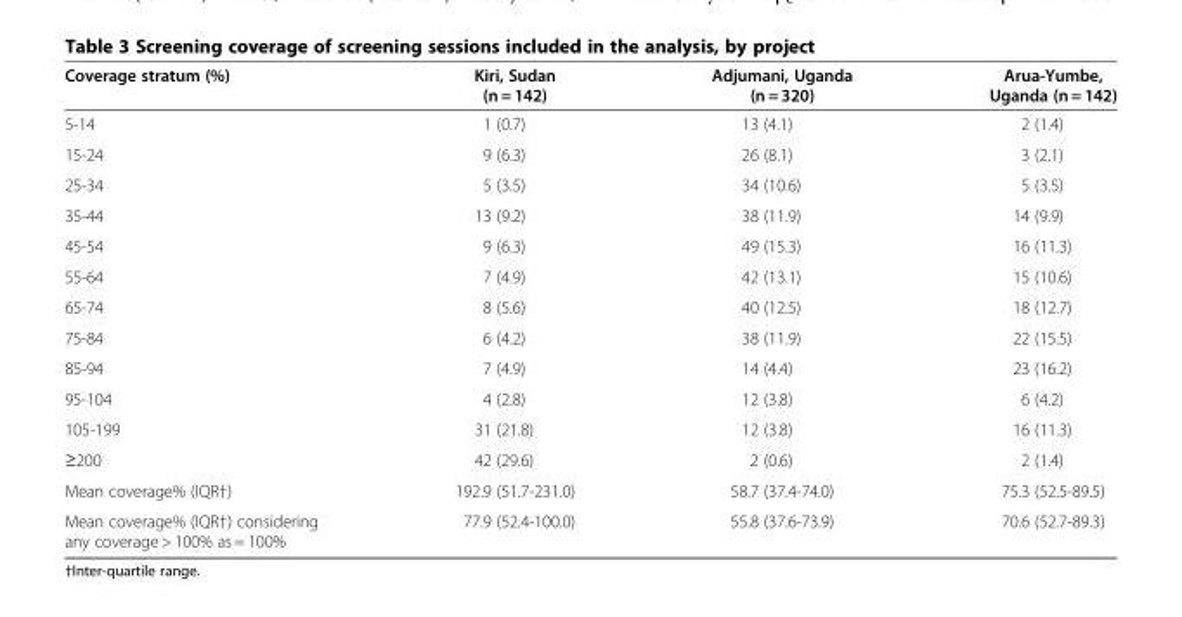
<table><thead><tr><td>Coverage stratum (%)</td><td>Kiri, Sudan (n = 142)</td><td>Adjumani, Uganda (n = 320)</td><td>Arua-Yumbe, Uganda (n = 142)</td></tr></thead><tbody><tr><td>5-14</td><td>1 (0.7)</td><td>13 (4.1)</td><td>2 (1.4)</td></tr><tr><td>15-24</td><td>9 (6.3)</td><td>26 (8.1)</td><td>3 (2.1)</td></tr><tr><td>25-34</td><td>5 (3.5)</td><td>34 (10.6)</td><td>5 (3.5)</td></tr><tr><td>35-44</td><td>13 (9.2)</td><td>38 (11.9)</td><td>14 (9.9)</td></tr><tr><td>45-54</td><td>9 (6.3)</td><td>49 (15.3)</td><td>16 (11.3)</td></tr><tr><td>55-64</td><td>7 (4.9)</td><td>42 (13.1)</td><td>15 (10.6)</td></tr><tr><td>65-74</td><td>8 (5.6)</td><td>40 (12.5)</td><td>18 (12.7)</td></tr><tr><td>75-84</td><td>6 (4.2)</td><td>38 (11.9)</td><td>22 (15.5)</td></tr><tr><td>85-94</td><td>7 (4.9)</td><td>14 (4.4)</td><td>23 (16.2)</td></tr><tr><td>95-104</td><td>4 (2.8)</td><td>12 (3.8)</td><td>6 (4.2)</td></tr><tr><td>105-199</td><td>31 (21.8)</td><td>12 (3.8)</td><td>16 (11.3)</td></tr><tr><td>≥200</td><td>42 (29.6)</td><td>2 (0.6)</td><td>2 (1.4)</td></tr><tr><td>Mean coverage% (IQR†)</td><td>192.9 (51.7-231.0)</td><td>58.7 (37.4-74.0)</td><td>75.3 (52.5-89.5)</td></tr><tr><td>Mean coverage% (IQR†) considering any coverage &gt; 100% as = 100%</td><td>77.9 (52.4-100.0)</td><td>55.8 (37.6-73.9)</td><td>70.6 (52.7-89.3)</td></tr></tbody></table>